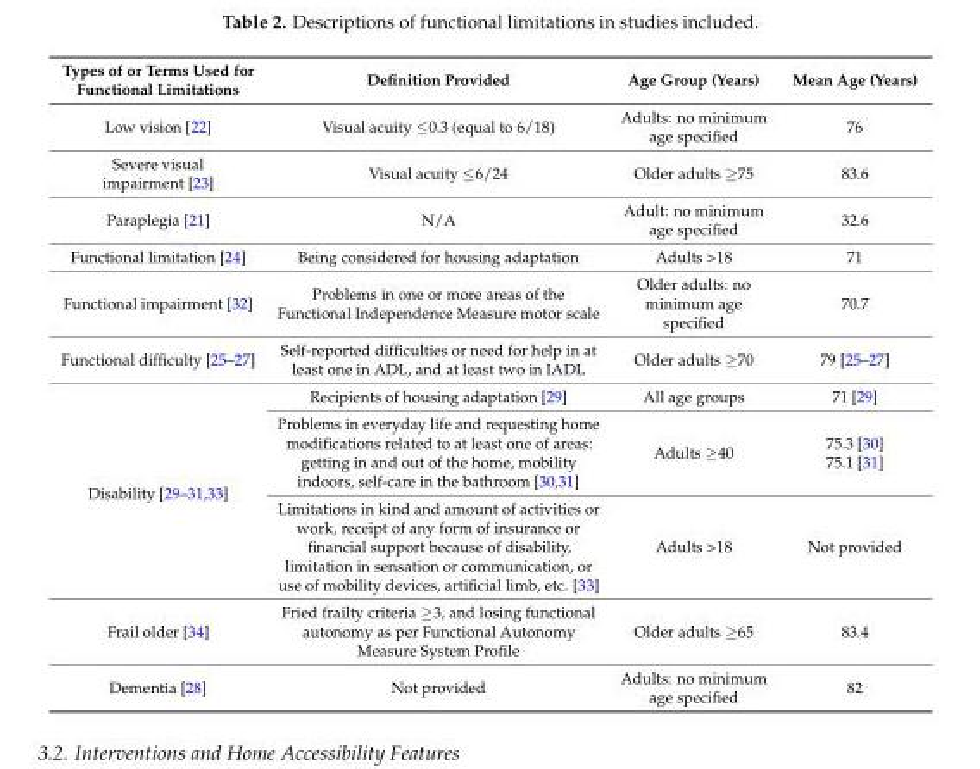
<table><thead><tr><td>Types of or Terms Used for Functional Limitations</td><td>Definition Provided</td><td>Age Group (Years)</td><td>Mean Age (Years)</td></tr></thead><tbody><tr><td>Low vision [22]</td><td>Visual acuity ≤0.3 (equal to 6/18)</td><td>Adults: no minimum age specified</td><td>76</td></tr><tr><td>Severe visual impairment [23]</td><td>Visual acuity ≤6/24</td><td>Older adults ≥75</td><td>83.6</td></tr><tr><td>Paraplegia [21]</td><td>N/A</td><td>Adult: no minimum age specified</td><td>32.6</td></tr><tr><td>Functional limitation [24]</td><td>Being considered for housing adaptation</td><td>Adults &gt;18</td><td>71</td></tr><tr><td>Functional impairment [32]</td><td>Problems in one or more areas of the Functional Independence Measure motor scale</td><td>Older adults: no minimum age specified</td><td>70.7</td></tr><tr><td>Functional difficulty [25–27]</td><td>Self-reported difficulties or need for help in at least one in ADL, and at least two in IADL</td><td>Older adults ≥70</td><td>79 [25–27]</td></tr><tr><td rowspan="3">Disability [29–31,33]</td><td>Recipients of housing adaptation [29]</td><td>All age groups</td><td>71 [29]</td></tr><tr><td>Problems in everyday life and requesting home modifications related to at least one of areas: getting in and out of the home, mobility indoors, self-care in the bathroom [30,31]</td><td>Adults ≥40</td><td>75.3 [30] 75.1 [31]</td></tr><tr><td>Limitations in kind and amount of activities or work, receipt of any form of insurance or financial support because of disability, limitation in sensation or communication, or use of mobility devices, artificial limb, etc. [33]</td><td>Adults &gt;18</td><td>Not provided</td></tr><tr><td>Frail older [34]</td><td>Fried frailty criteria ≥3, and losing functional autonomy as per Functional Autonomy Measure System Profile</td><td>Older adults ≥65</td><td>83.4</td></tr><tr><td>Dementia [28]</td><td>Not provided</td><td>Adults: no minimum age specified</td><td>82</td></tr></tbody></table>